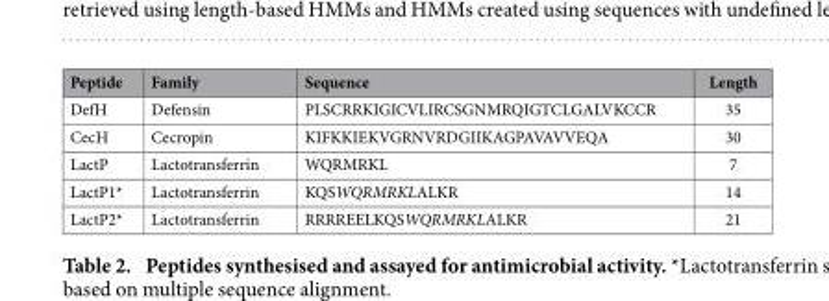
<table><thead><tr><td>Peptide</td><td>Family</td><td>Sequence</td><td>Length</td></tr></thead><tbody><tr><td>DefH</td><td>Defensin</td><td>PLSCRRKIGICVLIRCSGNMRQIGTCLGALVKCCR</td><td>35</td></tr><tr><td>CecH</td><td>Cecropin</td><td>KIFKKIEKVGRNVRDGIIKAGPAVAVVEQA</td><td>30</td></tr><tr><td>LactP</td><td>Lactotransferrin</td><td>WQRMRKL</td><td>7</td></tr><tr><td>LactP1*</td><td>Lactotransferrin</td><td>KQSWQRMRKLALKR</td><td>14</td></tr><tr><td>LactP2*</td><td>Lactotransferrin</td><td>RRRREELKQSWQRMRKLALKR</td><td>21</td></tr></tbody></table>